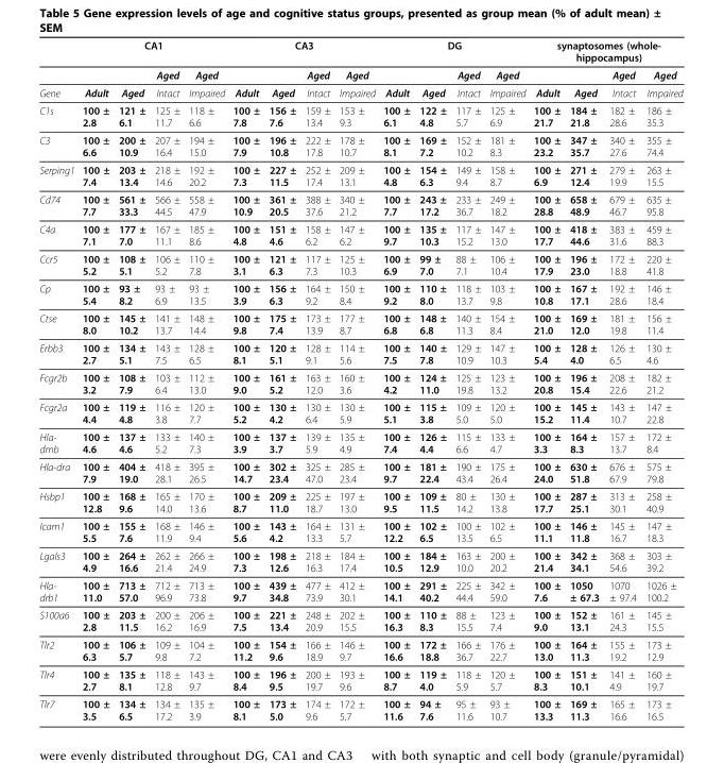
<table><thead><tr><td rowspan="2"></td><td colspan="4">CA1</td><td colspan="4">CA3</td><td colspan="4">DG</td><td colspan="4">synaptosomes (whole- hippocampus)</td></tr><tr><td></td><td></td><td>Aged</td><td>Aged</td><td></td><td></td><td>Aged</td><td>Aged</td><td></td><td></td><td>Aged</td><td>Aged</td><td></td><td></td><td>Aged</td><td>Aged</td></tr></thead><tbody><tr><td>Gene</td><td>Adult</td><td>Aged</td><td>Intact</td><td>Impaired</td><td>Adult</td><td>Aged</td><td>Intact</td><td>Impaired</td><td>Adult</td><td>Aged</td><td>Intact</td><td>Impaired</td><td>Adult</td><td>Aged</td><td>Intact</td><td>Impaired</td></tr><tr><td>C1s</td><td>100 ± 2.8</td><td>121 ± 6.1</td><td>125 ± 11.7</td><td>118 ± 6.6</td><td>100 ± 7.8</td><td>156 ± 7.6</td><td>159 ± 13.4</td><td>153 ± 9.3</td><td>100 ± 6.1</td><td>122 ± 4.8</td><td>117 ± 5.7</td><td>125 ± 6.9</td><td>100 ± 21.7</td><td>184 ± 21.8</td><td>182 ± 28.6</td><td>186 ± 35.3</td></tr><tr><td>C3</td><td>100 ± 6.6</td><td>200 ± 10.9</td><td>207 ± 16.4</td><td>194 ± 15.0</td><td>100 ± 7.9</td><td>196 ± 10.8</td><td>222 ± 17.8</td><td>178 ± 10.7</td><td>100 ± 8.1</td><td>169 ± 7.2</td><td>152 ± 10.2</td><td>181 ± 8.3</td><td>100 ± 23.2</td><td>347 ± 35.7</td><td>340 ± 27.6</td><td>355 ± 74.4</td></tr><tr><td>Serping1</td><td>100 ± 7.4</td><td>203 ± 13.4</td><td>218 ± 14.6</td><td>192 ± 20.2</td><td>100 ± 7.3</td><td>227 ± 11.5</td><td>252 ± 17.4</td><td>209 ± 13.1</td><td>100 ± 4.8</td><td>154 ± 6.3</td><td>149 ± 9.4</td><td>158 ± 8.7</td><td>100 ± 6.9</td><td>271 ± 12.4</td><td>279 ± 19.9</td><td>263 ± 15.5</td></tr><tr><td>Cd74</td><td>100 ± 7.7</td><td>561 ± 33.3</td><td>566 ± 44.5</td><td>558 ± 47.9</td><td>100 ± 10.9</td><td>361 ± 20.5</td><td>388 ± 37.6</td><td>340 ± 21.2</td><td>100 ± 7.7</td><td>243 ± 17.2</td><td>233 ± 36.7</td><td>249 ± 18.2</td><td>100 ± 28.8</td><td>658 ± 48.9</td><td>679 ± 46.7</td><td>635 ± 95.8</td></tr><tr><td>C4a</td><td>100 ± 7.1</td><td>177 ± 7.0</td><td>167 ± 11.1</td><td>185 ± 8.6</td><td>100 ± 4.8</td><td>151 ± 4.6</td><td>158 ± 6.2</td><td>147 ± 6.2</td><td>100 ± 9.7</td><td>135 ± 10.3</td><td>117 ± 15.2</td><td>147 ± 13.0</td><td>100 ± 17.7</td><td>418 ± 44.6</td><td>383 ± 31.6</td><td>459 ± 88.3</td></tr><tr><td>Ccr5</td><td>100 ± 5.2</td><td>108 ± 5.1</td><td>106 ± 5.2</td><td>110 ± 7.8</td><td>100 ± 3.1</td><td>121 ± 6.3</td><td>117 ± 7.3</td><td>125 ± 10.3</td><td>100 ± 6.9</td><td>99 ± 7.0</td><td>88 ± 7.1</td><td>106 ± 10.4</td><td>100 ± 17.9</td><td>196 ± 23.0</td><td>172 ± 18.8</td><td>220 ± 41.8</td></tr><tr><td>Cp</td><td>100 ± 5.4</td><td>93 ± 8.2</td><td>93 ± 6.9</td><td>93 ± 13.5</td><td>100 ± 3.9</td><td>156 ± 6.3</td><td>164 ± 9.2</td><td>150 ± 8.4</td><td>100 ± 9.2</td><td>110 ± 8.0</td><td>118 ± 13.7</td><td>103 ± 9.8</td><td>100 ± 10.8</td><td>167 ± 17.1</td><td>192 ± 28.6</td><td>146 ± 18.4</td></tr><tr><td>Ctse</td><td>100 ± 8.0</td><td>145 ± 10.2</td><td>141 ± 13.7</td><td>148 ± 14.4</td><td>100 ± 9.8</td><td>175 ± 7.4</td><td>173 ± 13.9</td><td>177 ± 8.7</td><td>100 ± 6.8</td><td>148 ± 6.8</td><td>140 ± 11.3</td><td>154 ± 8.4</td><td>100 ± 21.0</td><td>169 ± 12.0</td><td>181 ± 19.8</td><td>156 ± 11.4</td></tr><tr><td>Erbb3</td><td>100 ± 2.7</td><td>134 ± 5.1</td><td>143 ± 7.5</td><td>128 ± 6.5</td><td>100 ± 8.1</td><td>120 ± 5.1</td><td>128 ± 9.1</td><td>114 ± 5.6</td><td>100 ± 7.5</td><td>140 ± 7.8</td><td>129 ± 10.9</td><td>147 ± 10.3</td><td>100 ± 5.4</td><td>128 ± 4.0</td><td>126 ± 6.5</td><td>130 ± 4.6</td></tr><tr><td>Fcgr2b</td><td>100 ± 3.2</td><td>108 ± 7.9</td><td>103 ± 6.4</td><td>112 ± 13.0</td><td>100 ± 9.0</td><td>161 ± 5.2</td><td>163 ± 12.0</td><td>160 ± 3.6</td><td>100 ± 4.2</td><td>124 ± 11.0</td><td>125 ± 19.8</td><td>123 ± 13.2</td><td>100 ± 20.8</td><td>196 ± 15.4</td><td>208 ± 22.6</td><td>182 ± 21.2</td></tr><tr><td>Fcgr2a</td><td>100 ± 4.4</td><td>119 ± 4.8</td><td>116 ± 3.8</td><td>120 ± 7.7</td><td>100 ± 5.2</td><td>130 ± 4.2</td><td>130 ± 6.4</td><td>130 ± 5.9</td><td>100 ± 5.1</td><td>115 ± 3.8</td><td>109 ± 5.0</td><td>120 ± 5.0</td><td>100 ± 15.2</td><td>145 ± 11.4</td><td>143 ± 10.7</td><td>147 ± 22.8</td></tr><tr><td>Hla- dmb</td><td>100 ± 4.6</td><td>137 ± 4.6</td><td>133 ± 5.2</td><td>140 ± 7.3</td><td>100 ± 3.9</td><td>137 ± 3.7</td><td>139 ± 5.9</td><td>135 ± 4.9</td><td>100 ± 7.4</td><td>126 ± 4.4</td><td>115 ± 6.6</td><td>133 ± 4.7</td><td>100 ± 3.3</td><td>164 ± 8.3</td><td>157 ± 13.7</td><td>172 ± 8.4</td></tr><tr><td>Hla-dra</td><td>100 ± 7.9</td><td>404 ± 19.0</td><td>418 ± 28.1</td><td>395 ± 26.5</td><td>100 ± 14.7</td><td>302 ± 23.4</td><td>325 ± 47.0</td><td>285 ± 23.4</td><td>100 ± 9.7</td><td>181 ± 22.4</td><td>190 ± 43.4</td><td>175 ± 26.4</td><td>100 ± 24.0</td><td>630 ± 51.8</td><td>676 ± 67.9</td><td>575 ± 79.8</td></tr><tr><td>Hsbp1</td><td>100 ± 12.8</td><td>168 ± 9.6</td><td>165 ± 14.0</td><td>170 ± 13.6</td><td>100 ± 8.7</td><td>209 ± 11.0</td><td>225 ± 18.7</td><td>197 ± 13.0</td><td>100 ± 9.5</td><td>109 ± 11.5</td><td>80 ± 14.2</td><td>130 ± 13.8</td><td>100 ± 17.7</td><td>287 ± 25.1</td><td>313 ± 30.1</td><td>258 ± 40.9</td></tr><tr><td>Icam1</td><td>100 ± 5.5</td><td>155 ± 7.6</td><td>168 ± 11.9</td><td>146 ± 9.4</td><td>100 ± 5.6</td><td>143 ± 4.2</td><td>164 ± 13.3</td><td>131 ± 5.7</td><td>100 ± 12.2</td><td>102 ± 6.5</td><td>100 ± 13.5</td><td>102 ± 6.5</td><td>100 ± 11.1</td><td>146 ± 11.8</td><td>145 ± 16.7</td><td>147 ± 18.3</td></tr><tr><td>Lgals3</td><td>100 ± 4.9</td><td>264 ± 16.6</td><td>262 ± 21.4</td><td>266 ± 24.9</td><td>100 ± 7.3</td><td>198 ± 12.6</td><td>218 ± 16.3</td><td>184 ± 17.4</td><td>100 ± 10.5</td><td>184 ± 12.9</td><td>163 ± 10.0</td><td>200 ± 20.2</td><td>100 ± 21.4</td><td>342 ± 34.1</td><td>368 ± 54.6</td><td>303 ± 39.2</td></tr><tr><td>Hla- drb1</td><td>100 ± 11.0</td><td>713 ± 57.0</td><td>712 ± 96.9</td><td>713 ± 73.8</td><td>100 ± 9.7</td><td>439 ± 34.8</td><td>477 ± 73.9</td><td>412 ± 30.1</td><td>100 ± 14.1</td><td>291 ± 40.2</td><td>225 ± 44.4</td><td>342 ± 59.0</td><td>100 ± 7.6</td><td>1050 ± 67.3</td><td>1070 ± 97.4</td><td>1026 ± 100.2</td></tr><tr><td>S100a6</td><td>100 ± 2.8</td><td>203 ± 11.5</td><td>200 ± 16.2</td><td>206 ± 16.9</td><td>100 ± 7.5</td><td>221 ± 13.4</td><td>248 ± 20.9</td><td>202 ± 15.5</td><td>100 ± 16.3</td><td>110 ± 8.3</td><td>88 ± 15.5</td><td>123 ± 7.4</td><td>100 ± 9.0</td><td>152 ± 13.1</td><td>161 ± 24.3</td><td>145 ± 15.5</td></tr><tr><td>Tlr2</td><td>100 ± 6.3</td><td>106 ± 5.7</td><td>109 ± 9.8</td><td>104 ± 7.2</td><td>100 ± 11.2</td><td>154 ± 9.6</td><td>166 ± 18.9</td><td>146 ± 9.7</td><td>100 ± 16.6</td><td>172 ± 18.8</td><td>166 ± 36.7</td><td>176 ± 22.7</td><td>100 ± 13.0</td><td>164 ± 11.3</td><td>155 ± 19.2</td><td>173 ± 12.9</td></tr><tr><td>Tlr4</td><td>100 ± 2.7</td><td>135 ± 8.1</td><td>118 ± 12.8</td><td>143 ± 9.7</td><td>100 ± 8.4</td><td>196 ± 9.5</td><td>200 ± 19.7</td><td>193 ± 9.6</td><td>100 ± 8.7</td><td>119 ± 4.0</td><td>118 ± 5.9</td><td>120 ± 5.7</td><td>100 ± 8.3</td><td>151 ± 10.1</td><td>141 ± 4.9</td><td>160 ± 19.7</td></tr><tr><td>Tlr7</td><td>100 ± 3.5</td><td>134 ± 6.5</td><td>134 ± 17.2</td><td>135 ± 3.9</td><td>100 ± 8.1</td><td>173 ± 5.0</td><td>174 ± 9.6</td><td>172 ± 5.7</td><td>100 ± 11.6</td><td>94 ± 7.6</td><td>95 ± 11.6</td><td>93 ± 10.7</td><td>100 ± 13.3</td><td>169 ± 11.3</td><td>165 ± 16.6</td><td>173 ± 16.5</td></tr></tbody></table>